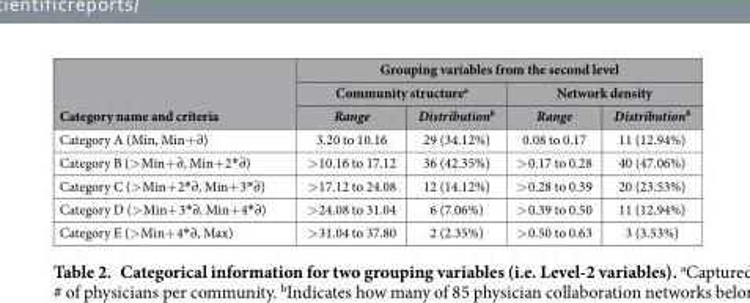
<table><thead><tr><td rowspan="3">Category name and criteria</td><td colspan="4">Grouping variables from the second level</td></tr><tr><td colspan="2">Community structure<sup>a</sup></td><td colspan="2">Network density</td></tr><tr><td>Range</td><td>Distribution<sup>b</sup></td><td>Range</td><td>Distribution<sup>b</sup></td></tr></thead><tbody><tr><td>Category A (Min, Min+ ∂)</td><td>3.20 to 10.16</td><td>29 (34.12%)</td><td>0.08 to 0.17</td><td>11 (12.94%)</td></tr><tr><td>Category B (&gt; Min+ ∂, Min+ 2*∂)</td><td>&gt; 10.16 to 17.12</td><td>36 (42.35%)</td><td>&gt; 0.17 to 0.28</td><td>40 (47.06%)</td></tr><tr><td>Category C (&gt; Min+ 2*∂, Min+ 3*∂)</td><td>&gt; 17.12 to 24.08</td><td>12 (14.12%)</td><td>&gt; 0.28 to 0.39</td><td>20 (23.53%)</td></tr><tr><td>Category D (&gt; Min+ 3*∂, Min+ 4*∂)</td><td>&gt; 24.08 to 31.04</td><td>6 (7.06%)</td><td>&gt; 0.39 to 0.50</td><td>11 (12.94%)</td></tr><tr><td>Category E (&gt; Min+ 4*∂, Max)</td><td>&gt; 31.04 to 37.80</td><td>2 (2.35%)</td><td>&gt; 0.50 to 0.63</td><td>3 (3.53%)</td></tr></tbody></table>